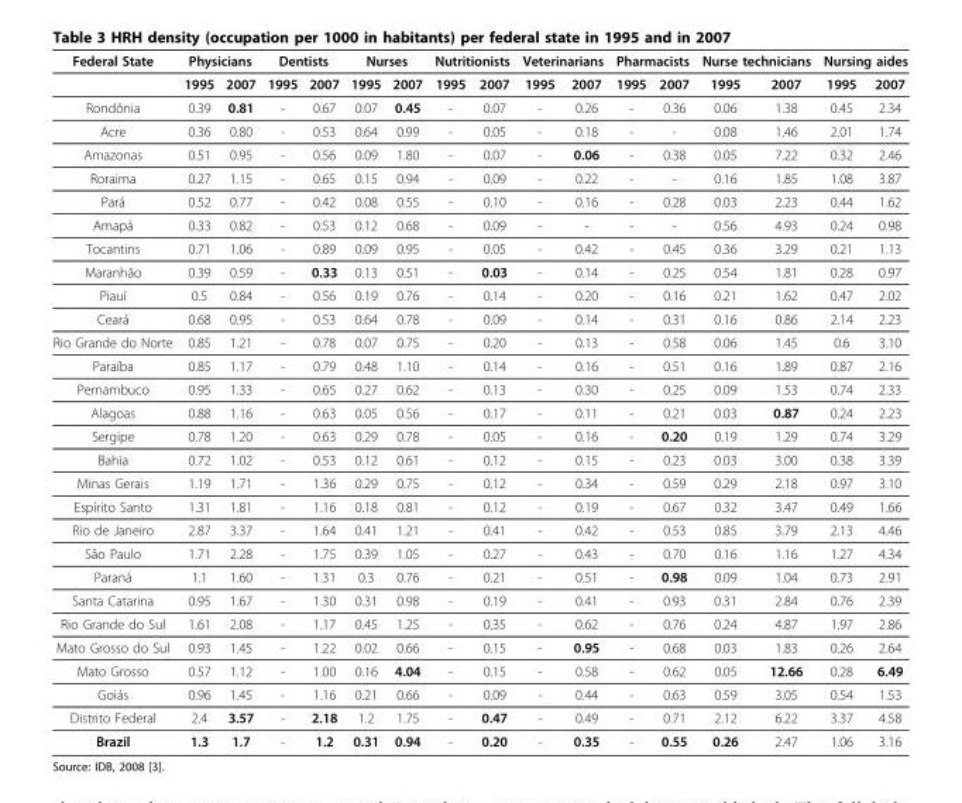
<table><thead><tr><td rowspan="2">Federal State</td><td colspan="2">Physicians</td><td colspan="2">Dentists</td><td colspan="2">Nurses</td><td colspan="2">Nutritionists</td><td colspan="2">Veterinarians</td><td colspan="2">Pharmacists</td><td colspan="2">Nurse technicians</td><td colspan="2">Nursing aides</td></tr><tr><td>1995</td><td>2007</td><td>1995</td><td>2007</td><td>1995</td><td>2007</td><td>1995</td><td>2007</td><td>1995</td><td>2007</td><td>1995</td><td>2007</td><td>1995</td><td>2007</td><td>1995</td><td>2007</td></tr></thead><tbody><tr><td>Rondônia</td><td>0.39</td><td>0.81</td><td>-</td><td>0.67</td><td>0.07</td><td>0.45</td><td>-</td><td>0.07</td><td>-</td><td>0.26</td><td>-</td><td>0.36</td><td>0.06</td><td>1.38</td><td>0.45</td><td>2.34</td></tr><tr><td>Acre</td><td>0.36</td><td>0.80</td><td>-</td><td>0.53</td><td>0.64</td><td>0.99</td><td>-</td><td>0.05</td><td>-</td><td>0.18</td><td>-</td><td>-</td><td>0.08</td><td>1.46</td><td>2.01</td><td>1.74</td></tr><tr><td>Amazonas</td><td>0.51</td><td>0.95</td><td>-</td><td>0.56</td><td>0.09</td><td>1.80</td><td>-</td><td>0.07</td><td>-</td><td>0.06</td><td>-</td><td>0.38</td><td>0.05</td><td>7.22</td><td>0.32</td><td>2.46</td></tr><tr><td>Roraima</td><td>0.27</td><td>1.15</td><td>-</td><td>0.65</td><td>0.15</td><td>0.94</td><td>-</td><td>0.09</td><td>-</td><td>0.22</td><td>-</td><td>-</td><td>0.16</td><td>1.85</td><td>1.08</td><td>3.87</td></tr><tr><td>Pará</td><td>0.52</td><td>0.77</td><td>-</td><td>0.42</td><td>0.08</td><td>0.55</td><td>-</td><td>0.10</td><td>-</td><td>0.16</td><td>-</td><td>0.28</td><td>0.03</td><td>2.23</td><td>0.44</td><td>1.62</td></tr><tr><td>Amapá</td><td>0.33</td><td>0.82</td><td>-</td><td>0.53</td><td>0.12</td><td>0.68</td><td>-</td><td>0.09</td><td>-</td><td>-</td><td>-</td><td>-</td><td>0.56</td><td>4.93</td><td>0.24</td><td>0.98</td></tr><tr><td>Tocantins</td><td>0.71</td><td>1.06</td><td>-</td><td>0.89</td><td>0.09</td><td>0.95</td><td>-</td><td>0.05</td><td>-</td><td>0.42</td><td>-</td><td>0.45</td><td>0.36</td><td>3.29</td><td>0.21</td><td>1.13</td></tr><tr><td>Maranhão</td><td>0.39</td><td>0.59</td><td>-</td><td>0.33</td><td>0.13</td><td>0.51</td><td>-</td><td>0.03</td><td>-</td><td>0.14</td><td>-</td><td>0.25</td><td>0.54</td><td>1.81</td><td>0.28</td><td>0.97</td></tr><tr><td>Piauí</td><td>0.5</td><td>0.84</td><td>-</td><td>0.56</td><td>0.19</td><td>0.76</td><td>-</td><td>0.14</td><td>-</td><td>0.20</td><td>-</td><td>0.16</td><td>0.21</td><td>1.62</td><td>0.47</td><td>2.02</td></tr><tr><td>Ceará</td><td>0.68</td><td>0.95</td><td>-</td><td>0.53</td><td>0.64</td><td>0.78</td><td>-</td><td>0.09</td><td>-</td><td>0.14</td><td>-</td><td>0.31</td><td>0.16</td><td>0.86</td><td>2.14</td><td>2.23</td></tr><tr><td>Rio Grande do Norte</td><td>0.85</td><td>1.21</td><td>-</td><td>0.78</td><td>0.07</td><td>0.75</td><td>-</td><td>0.20</td><td>-</td><td>0.13</td><td>-</td><td>0.58</td><td>0.06</td><td>1.45</td><td>0.6</td><td>3.10</td></tr><tr><td>Paraíba</td><td>0.85</td><td>1.17</td><td>-</td><td>0.79</td><td>0.48</td><td>1.10</td><td>-</td><td>0.14</td><td>-</td><td>0.16</td><td>-</td><td>0.51</td><td>0.16</td><td>1.89</td><td>0.87</td><td>2.16</td></tr><tr><td>Pernambuco</td><td>0.95</td><td>1.33</td><td>-</td><td>0.65</td><td>0.27</td><td>0.62</td><td>-</td><td>0.13</td><td>-</td><td>0.30</td><td>-</td><td>0.25</td><td>0.09</td><td>1.53</td><td>0.74</td><td>2.33</td></tr><tr><td>Alagoas</td><td>0.88</td><td>1.16</td><td>-</td><td>0.63</td><td>0.05</td><td>0.56</td><td>-</td><td>0.17</td><td>-</td><td>0.11</td><td>-</td><td>0.21</td><td>0.03</td><td>0.87</td><td>0.24</td><td>2.23</td></tr><tr><td>Sergipe</td><td>0.78</td><td>1.20</td><td>-</td><td>0.63</td><td>0.29</td><td>0.78</td><td>-</td><td>0.05</td><td>-</td><td>0.16</td><td>-</td><td>0.20</td><td>0.19</td><td>1.29</td><td>0.74</td><td>3.29</td></tr><tr><td>Bahia</td><td>0.72</td><td>1.02</td><td>-</td><td>0.53</td><td>0.12</td><td>0.61</td><td>-</td><td>0.12</td><td>-</td><td>0.15</td><td>-</td><td>0.23</td><td>0.03</td><td>3.00</td><td>0.38</td><td>3.39</td></tr><tr><td>Minas Gerais</td><td>1.19</td><td>1.71</td><td>-</td><td>1.36</td><td>0.29</td><td>0.75</td><td>-</td><td>0.12</td><td>-</td><td>0.34</td><td>-</td><td>0.59</td><td>0.29</td><td>2.18</td><td>0.97</td><td>3.10</td></tr><tr><td>Espírito Santo</td><td>1.31</td><td>1.81</td><td>-</td><td>1.16</td><td>0.18</td><td>0.81</td><td>-</td><td>0.12</td><td>-</td><td>0.19</td><td>-</td><td>0.67</td><td>0.32</td><td>3.47</td><td>0.49</td><td>1.66</td></tr><tr><td>Rio de Janeiro</td><td>2.87</td><td>3.37</td><td>-</td><td>1.64</td><td>0.41</td><td>1.21</td><td>-</td><td>0.41</td><td>-</td><td>0.42</td><td>-</td><td>0.53</td><td>0.85</td><td>3.79</td><td>2.13</td><td>4.46</td></tr><tr><td>São Paulo</td><td>1.71</td><td>2.28</td><td>-</td><td>1.75</td><td>0.39</td><td>1.05</td><td>-</td><td>0.27</td><td>-</td><td>0.43</td><td>-</td><td>0.70</td><td>0.16</td><td>1.16</td><td>1.27</td><td>4.34</td></tr><tr><td>Paraná</td><td>1.1</td><td>1.60</td><td>-</td><td>1.31</td><td>0.3</td><td>0.76</td><td>-</td><td>0.21</td><td>-</td><td>0.51</td><td>-</td><td>0.98</td><td>0.09</td><td>1.04</td><td>0.73</td><td>2.91</td></tr><tr><td>Santa Catarina</td><td>0.95</td><td>1.67</td><td>-</td><td>1.30</td><td>0.31</td><td>0.98</td><td>-</td><td>0.19</td><td>-</td><td>0.41</td><td>-</td><td>0.93</td><td>0.31</td><td>2.84</td><td>0.76</td><td>2.39</td></tr><tr><td>Rio Grande do Sul</td><td>1.61</td><td>2.08</td><td>-</td><td>1.17</td><td>0.45</td><td>1.25</td><td>-</td><td>0.35</td><td>-</td><td>0.62</td><td>-</td><td>0.76</td><td>0.24</td><td>4.87</td><td>1.97</td><td>2.86</td></tr><tr><td>Mato Grosso do Sul</td><td>0.93</td><td>1.45</td><td>-</td><td>1.22</td><td>0.02</td><td>0.66</td><td>-</td><td>0.15</td><td>-</td><td>0.95</td><td>-</td><td>0.68</td><td>0.03</td><td>1.83</td><td>0.26</td><td>2.64</td></tr><tr><td>Mato Grosso</td><td>0.57</td><td>1.12</td><td>-</td><td>1.00</td><td>0.16</td><td>4.04</td><td>-</td><td>0.15</td><td>-</td><td>0.58</td><td>-</td><td>0.62</td><td>0.05</td><td>12.66</td><td>0.28</td><td>6.49</td></tr><tr><td>Goiás</td><td>0.96</td><td>1.45</td><td>-</td><td>1.16</td><td>0.21</td><td>0.66</td><td>-</td><td>0.09</td><td>-</td><td>0.44</td><td>-</td><td>0.63</td><td>0.59</td><td>3.05</td><td>0.54</td><td>1.53</td></tr><tr><td>Distrito Federal</td><td>2.4</td><td>3.57</td><td>-</td><td>2.18</td><td>1.2</td><td>1.75</td><td>-</td><td>0.47</td><td>-</td><td>0.49</td><td>-</td><td>0.71</td><td>2.12</td><td>6.22</td><td>3.37</td><td>4.58</td></tr><tr><td>Brazil</td><td>1.3</td><td>1.7</td><td>-</td><td>1.2</td><td>0.31</td><td>0.94</td><td>-</td><td>0.20</td><td>-</td><td>0.35</td><td>-</td><td>0.55</td><td>0.26</td><td>2.47</td><td>1.06</td><td>3.16</td></tr></tbody></table>